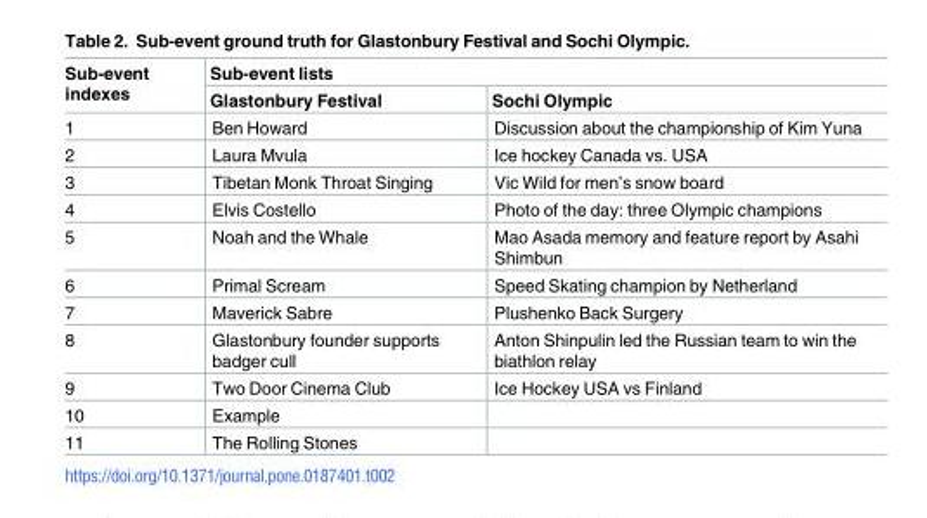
<table><thead><tr><td rowspan="2">Sub-event indexes</td><td colspan="2">Sub-event lists</td></tr><tr><td>Glastonbury Festival</td><td>Sochi Olympic</td></tr></thead><tbody><tr><td>1</td><td>Ben Howard</td><td>Discussion about the championship of Kim Yuna</td></tr><tr><td>2</td><td>Laura Mvula</td><td>Ice hockey Canada vs. USA</td></tr><tr><td>3</td><td>Tibetan Monk Throat Singing</td><td>Vic Wild for men’s snow board</td></tr><tr><td>4</td><td>Elvis Costello</td><td>Photo of the day: three Olympic champions</td></tr><tr><td>5</td><td>Noah and the Whale</td><td>Mao Asada memory and feature report by Asahi Shimbun</td></tr><tr><td>6</td><td>Primal Scream</td><td>Speed Skating champion by Netherland</td></tr><tr><td>7</td><td>Maverick Sabre</td><td>Plushenko Back Surgery</td></tr><tr><td>8</td><td>Glastonbury founder supports badger cull</td><td>Anton Shinpulin led the Russian team to win the biathlon relay</td></tr><tr><td>9</td><td>Two Door Cinema Club</td><td>Ice Hockey USA vs Finland</td></tr><tr><td>10</td><td>Example</td><td></td></tr><tr><td>11</td><td>The Rolling Stones</td><td></td></tr></tbody></table>